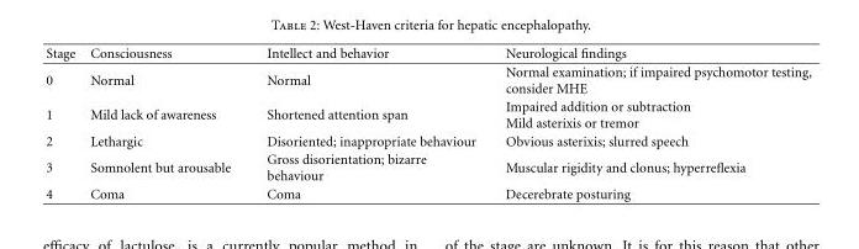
<table><thead><tr><td>Stage</td><td>Consciousness</td><td>Intellect and behavior</td><td>Neurological findings</td></tr></thead><tbody><tr><td>0</td><td>Normal</td><td>Normal</td><td>Normal examination; if impaired psychomotor testing, consider MHE</td></tr><tr><td>1</td><td>Mild lack of awareness</td><td>Shortened attention span</td><td>Impaired addition or subtraction Mild asterixis or tremor</td></tr><tr><td>2</td><td>Lethargic</td><td>Disoriented; inappropriate behaviour</td><td>Obvious asterixis; slurred speech</td></tr><tr><td>3</td><td>Somnolent but arousable</td><td>Gross disorientation; bizarre behaviour</td><td>Muscular rigidity and clonus; hyperreflexia</td></tr><tr><td>4</td><td>Coma</td><td>Coma</td><td>Decerebrate posturing</td></tr></tbody></table>